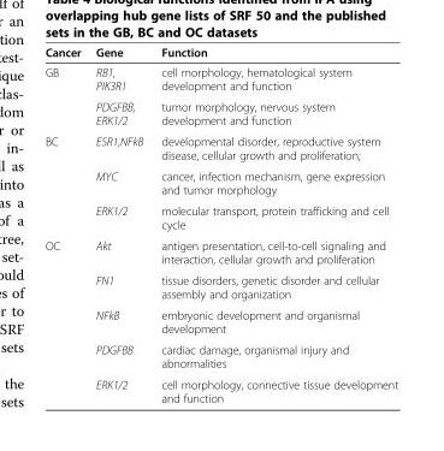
<table><thead><tr><td>Cancer</td><td>Gene</td><td>Function</td></tr></thead><tbody><tr><td rowspan="2">GB</td><td>RB1, PIK3R1</td><td>cell morphology, hematological system development and function</td></tr><tr><td>PDGFBB, ERK1/2</td><td>tumor morphology, nervous system development and function</td></tr><tr><td rowspan="3">BC</td><td>ESR1,NFkB</td><td>developmental disorder, reproductive system disease, cellular growth and proliferation;</td></tr><tr><td>MYC</td><td>cancer, infection mechanism, gene expression and tumor morphology</td></tr><tr><td>ERK1/2</td><td>molecular transport, protein trafficking and cell cycle</td></tr><tr><td rowspan="5">OC</td><td>Akt</td><td>antigen presentation, cell-to-cell signaling and interaction, cellular growth and proliferation</td></tr><tr><td>FN1</td><td>tissue disorders, genetic disorder and cellular assembly and organization</td></tr><tr><td>NFkB</td><td>embryonic development and organismal development</td></tr><tr><td>PDGFBB</td><td>cardiac damage, organismal injury and abnormalities</td></tr><tr><td>ERK1/2</td><td>cell morphology, connective tissue development and function</td></tr></tbody></table>